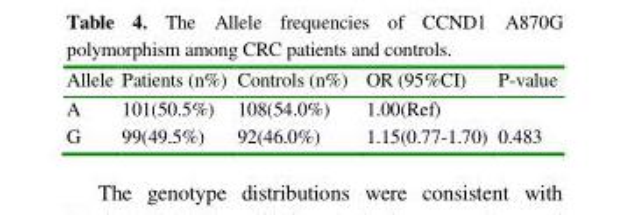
<table><thead><tr><td>Allele</td><td>Patients (n%)</td><td>Controls (n%)</td><td>OR (95%CI)</td><td>P-value</td></tr></thead><tbody><tr><td>A</td><td>101(50.5%)</td><td>108(54.0%)</td><td>1.00(Ref)</td><td></td></tr><tr><td>G</td><td>99(49.5%)</td><td>92(46.0%)</td><td>1.15(0.77-1.70)</td><td>0.483</td></tr></tbody></table>